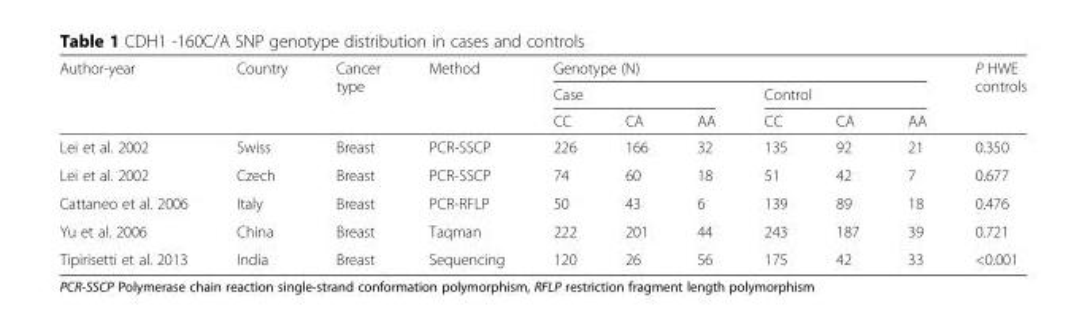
<table><thead><tr><td rowspan="3">Author-year</td><td rowspan="3">Country</td><td rowspan="3">Cancer type</td><td rowspan="3">Method</td><td colspan="6">Genotype (N)</td><td rowspan="3">P HWE controls</td></tr><tr><td colspan="3">Case</td><td colspan="3">Control</td></tr><tr><td>CC</td><td>CA</td><td>AA</td><td>CC</td><td>CA</td><td>AA</td></tr></thead><tbody><tr><td>Lei et al. 2002</td><td>Swiss</td><td>Breast</td><td>PCR-SSCP</td><td>226</td><td>166</td><td>32</td><td>135</td><td>92</td><td>21</td><td>0.350</td></tr><tr><td>Lei et al. 2002</td><td>Czech</td><td>Breast</td><td>PCR-SSCP</td><td>74</td><td>60</td><td>18</td><td>51</td><td>42</td><td>7</td><td>0.677</td></tr><tr><td>Cattaneo et al. 2006</td><td>Italy</td><td>Breast</td><td>PCR-RFLP</td><td>50</td><td>43</td><td>6</td><td>139</td><td>89</td><td>18</td><td>0.476</td></tr><tr><td>Yu et al. 2006</td><td>China</td><td>Breast</td><td>Taqman</td><td>222</td><td>201</td><td>44</td><td>243</td><td>187</td><td>39</td><td>0.721</td></tr><tr><td>Tipirisetti et al. 2013</td><td>India</td><td>Breast</td><td>Sequencing</td><td>120</td><td>26</td><td>56</td><td>175</td><td>42</td><td>33</td><td>&lt;0.001</td></tr></tbody></table>